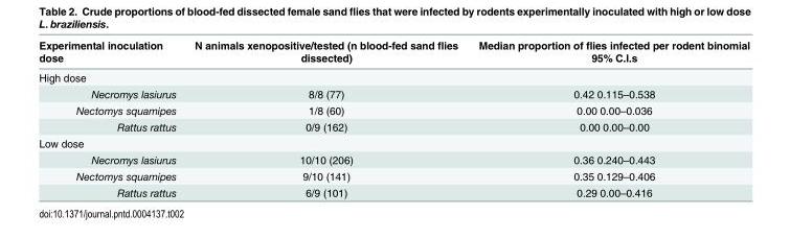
<table><thead><tr><td>Experimental inoculation dose</td><td>N animals xenopositive/tested (n blood-fed sand flies dissected)</td><td>Median proportion of flies infected per rodent binomial 95% C.I.s</td></tr></thead><tbody><tr><td colspan="3">High dose</td></tr><tr><td>Necromys lasiurus</td><td>8/8 (77)</td><td>0.42 0.115–0.538</td></tr><tr><td>Nectomys squamipes</td><td>1/8 (60)</td><td>0.00 0.00–0.036</td></tr><tr><td>Rattus rattus</td><td>0/9 (162)</td><td>0.00 0.00–0.00</td></tr><tr><td colspan="3">Low dose</td></tr><tr><td>Necromys lasiurus</td><td>10/10 (206)</td><td>0.36 0.240–0.443</td></tr><tr><td>Nectomys squamipes</td><td>9/10 (141)</td><td>0.35 0.129–0.406</td></tr><tr><td>Rattus rattus</td><td>6/9 (101)</td><td>0.29 0.00–0.416</td></tr></tbody></table>